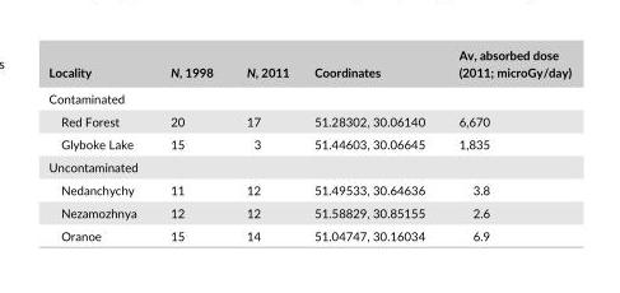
<table><thead><tr><td>Locality</td><td>N, 1998</td><td>N, 2011</td><td>Coordinates</td><td>Av, absorbed dose (2011; microGy/day)</td></tr></thead><tbody><tr><td colspan="5">Contaminated</td></tr><tr><td>Red Forest</td><td>20</td><td>17</td><td>51.28302, 30.06140</td><td>6,670</td></tr><tr><td>Glyboke Lake</td><td>15</td><td>3</td><td>51.44603, 30.06645</td><td>1,835</td></tr><tr><td colspan="5">Uncontaminated</td></tr><tr><td>Nedanchychy</td><td>11</td><td>12</td><td>51.49533, 30.64636</td><td>3.8</td></tr><tr><td>Nezamozhnya</td><td>12</td><td>12</td><td>51.58829, 30.85155</td><td>2.6</td></tr><tr><td>Oranoe</td><td>15</td><td>14</td><td>51.04747, 30.16034</td><td>6.9</td></tr></tbody></table>